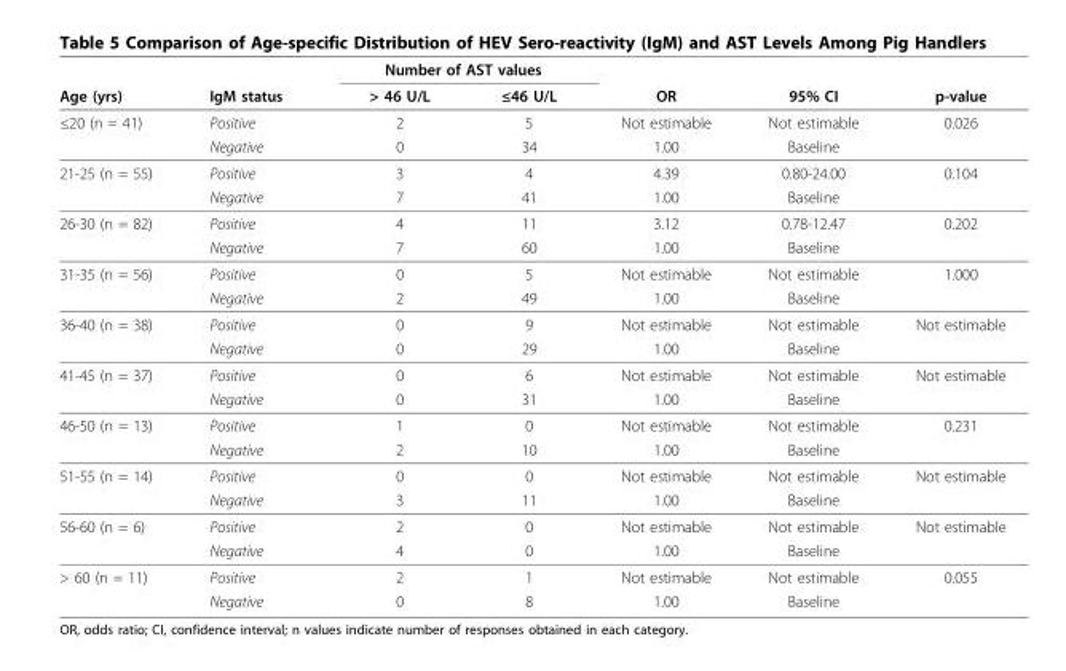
<table><thead><tr><td rowspan="2">Age (yrs)</td><td rowspan="2">IgM status</td><td colspan="2">Number of AST values</td><td rowspan="2">OR</td><td rowspan="2">95% CI</td><td rowspan="2">p-value</td></tr><tr><td>&gt; 46 U/L</td><td>≤46 U/L</td></tr></thead><tbody><tr><td rowspan="2">≤20 (n = 41)</td><td>Positive</td><td>2</td><td>5</td><td>Not estimable</td><td>Not estimable</td><td>0.026</td></tr><tr><td>Negative</td><td>0</td><td>34</td><td>1.00</td><td>Baseline</td><td></td></tr><tr><td rowspan="2">21-25 (n = 55)</td><td>Positive</td><td>3</td><td>4</td><td>4.39</td><td>0.80-24.00</td><td>0.104</td></tr><tr><td>Negative</td><td>7</td><td>41</td><td>1.00</td><td>Baseline</td><td></td></tr><tr><td rowspan="2">26-30 (n = 82)</td><td>Positive</td><td>4</td><td>11</td><td>3.12</td><td>0.78-12.47</td><td>0.202</td></tr><tr><td>Negative</td><td>7</td><td>60</td><td>1.00</td><td>Baseline</td><td></td></tr><tr><td rowspan="2">31-35 (n = 56)</td><td>Positive</td><td>0</td><td>5</td><td>Not estimable</td><td>Not estimable</td><td>1.000</td></tr><tr><td>Negative</td><td>2</td><td>49</td><td>1.00</td><td>Baseline</td><td></td></tr><tr><td rowspan="2">36-40 (n = 38)</td><td>Positive</td><td>0</td><td>9</td><td>Not estimable</td><td>Not estimable</td><td>Not estimable</td></tr><tr><td>Negative</td><td>0</td><td>29</td><td>1.00</td><td>Baseline</td><td></td></tr><tr><td rowspan="2">41-45 (n = 37)</td><td>Positive</td><td>0</td><td>6</td><td>Not estimable</td><td>Not estimable</td><td>Not estimable</td></tr><tr><td>Negative</td><td>0</td><td>31</td><td>1.00</td><td>Baseline</td><td></td></tr><tr><td rowspan="2">46-50 (n = 13)</td><td>Positive</td><td>1</td><td>0</td><td>Not estimable</td><td>Not estimable</td><td>0.231</td></tr><tr><td>Negative</td><td>2</td><td>10</td><td>1.00</td><td>Baseline</td><td></td></tr><tr><td rowspan="2">51-55 (n = 14)</td><td>Positive</td><td>0</td><td>0</td><td>Not estimable</td><td>Not estimable</td><td>Not estimable</td></tr><tr><td>Negative</td><td>3</td><td>11</td><td>1.00</td><td>Baseline</td><td></td></tr><tr><td rowspan="2">56-60 (n = 6)</td><td>Positive</td><td>2</td><td>0</td><td>Not estimable</td><td>Not estimable</td><td>Not estimable</td></tr><tr><td>Negative</td><td>4</td><td>0</td><td>1.00</td><td>Baseline</td><td></td></tr><tr><td rowspan="2">&gt; 60 (n = 11)</td><td>Positive</td><td>2</td><td>1</td><td>Not estimable</td><td>Not estimable</td><td>0.055</td></tr><tr><td>Negative</td><td>0</td><td>8</td><td>1.00</td><td>Baseline</td><td></td></tr></tbody></table>